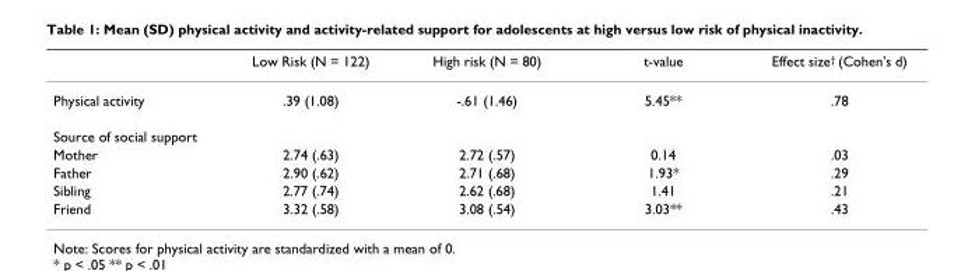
<table><thead><tr><td></td><td>Low Risk (N = 122)</td><td>High risk (N = 80)</td><td>t-value</td><td>Effect size<sup>†</sup> (Cohen&#x27;s d)</td></tr></thead><tbody><tr><td>Physical activity</td><td>.39 (1.08)</td><td>-.61 (1.46)</td><td>5.45**</td><td>.78</td></tr><tr><td colspan="5">Source of social support</td></tr><tr><td>Mother</td><td>2.74 (.63)</td><td>2.72 (.57)</td><td>0.14</td><td>.03</td></tr><tr><td>Father</td><td>2.90 (.62)</td><td>2.71 (.68)</td><td>1.93*</td><td>.29</td></tr><tr><td>Sibling</td><td>2.77 (.74)</td><td>2.62 (.68)</td><td>1.41</td><td>.21</td></tr><tr><td>Friend</td><td>3.32 (.58)</td><td>3.08 (.54)</td><td>3.03**</td><td>.43</td></tr></tbody></table>